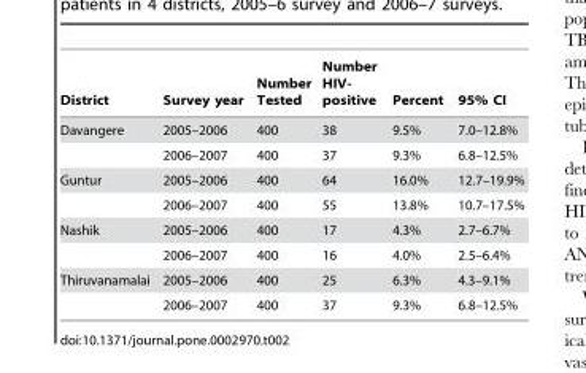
<table><thead><tr><td>District</td><td>Survey year</td><td>Number Tested</td><td>Number HIV- positive</td><td>Percent</td><td>95% CI</td></tr></thead><tbody><tr><td rowspan="2">Davangere</td><td>2005–2006</td><td>400</td><td>38</td><td>9.5%</td><td>7.0–12.8%</td></tr><tr><td>2006–2007</td><td>400</td><td>37</td><td>9.3%</td><td>6.8–12.5%</td></tr><tr><td rowspan="2">Guntur</td><td>2005–2006</td><td>400</td><td>64</td><td>16.0%</td><td>12.7–19.9%</td></tr><tr><td>2006–2007</td><td>400</td><td>55</td><td>13.8%</td><td>10.7–17.5%</td></tr><tr><td rowspan="2">Nashik</td><td>2005–2006</td><td>400</td><td>17</td><td>4.3%</td><td>2.7–6.7%</td></tr><tr><td>2006–2007</td><td>400</td><td>16</td><td>4.0%</td><td>2.5–6.4%</td></tr><tr><td rowspan="2">Thiruvanamalai</td><td>2005–2006</td><td>400</td><td>25</td><td>6.3%</td><td>4.3–9.1%</td></tr><tr><td>2006–2007</td><td>400</td><td>37</td><td>9.3%</td><td>6.8–12.5%</td></tr></tbody></table>